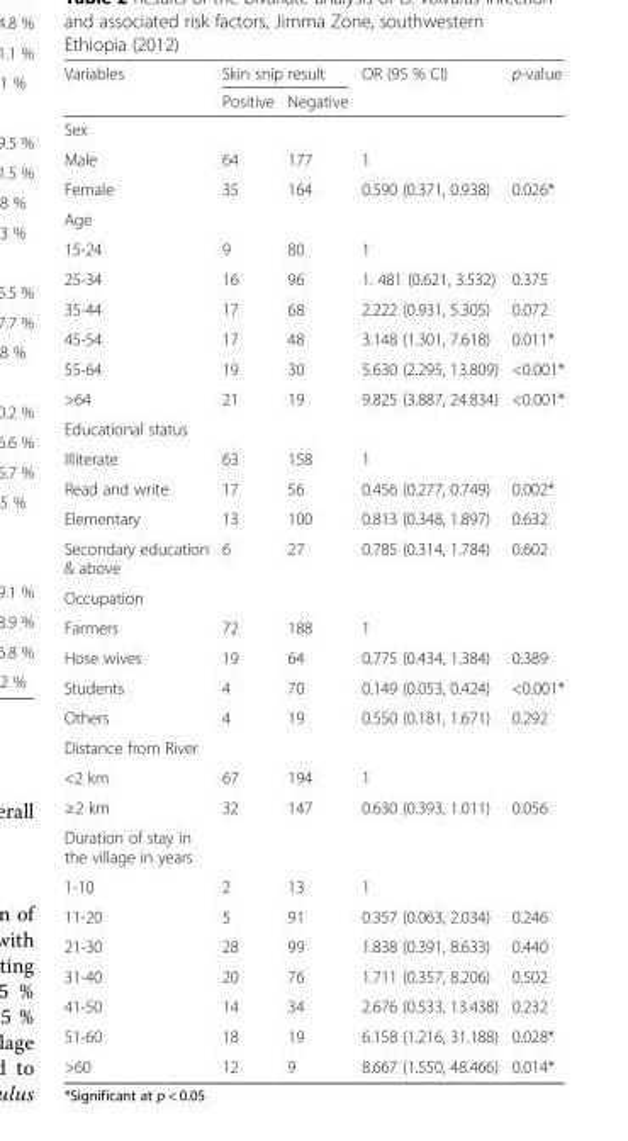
<table><thead><tr><td rowspan="2">Variables</td><td colspan="2">Skin snip result</td><td rowspan="2">OR (95 % CI)</td><td rowspan="2">p-value</td></tr><tr><td>Positive</td><td>Negative</td></tr></thead><tbody><tr><td colspan="5">Sex</td></tr><tr><td>Male</td><td>64</td><td>177</td><td>1</td><td></td></tr><tr><td>Female</td><td>35</td><td>164</td><td>0.590 (0.371, 0.938)</td><td>0.026*</td></tr><tr><td colspan="5">Age</td></tr><tr><td>15-24</td><td>9</td><td>80</td><td>1</td><td></td></tr><tr><td>25-34</td><td>16</td><td>96</td><td>1. 481 (0.621, 3.532)</td><td>0.375</td></tr><tr><td>35-44</td><td>17</td><td>68</td><td>2.222 (0.931, 5.305)</td><td>0.072</td></tr><tr><td>45-54</td><td>17</td><td>48</td><td>3.148 (1.301, 7.618)</td><td>0.011*</td></tr><tr><td>55-64</td><td>19</td><td>30</td><td>5.630 (2.295, 13.809)</td><td>&lt;0.001*</td></tr><tr><td>&gt;64</td><td>21</td><td>19</td><td>9.825 (3.887, 24.834)</td><td>&lt;0.001*</td></tr><tr><td colspan="5">Educational status</td></tr><tr><td>Illiterate</td><td>63</td><td>158</td><td>1</td><td></td></tr><tr><td>Read and write</td><td>17</td><td>56</td><td>0.456 (0.277, 0.749)</td><td>0.002*</td></tr><tr><td>Elementary</td><td>13</td><td>100</td><td>0.813 (0.348, 1.897)</td><td>0.632</td></tr><tr><td>Secondary education &amp; above</td><td>6</td><td>27</td><td>0.785 (0.314, 1.784)</td><td>0.602</td></tr><tr><td colspan="5">Occupation</td></tr><tr><td>Farmers</td><td>72</td><td>188</td><td>1</td><td></td></tr><tr><td>Hose wives</td><td>19</td><td>64</td><td>0.775 (0.434, 1.384)</td><td>0.389</td></tr><tr><td>Students</td><td>4</td><td>70</td><td>0.149 (0.053, 0.424)</td><td>&lt;0.001*</td></tr><tr><td>Others</td><td>4</td><td>19</td><td>0.550 (0.181, 1.671)</td><td>0.292</td></tr><tr><td colspan="5">Distance from River</td></tr><tr><td>&lt;2 km</td><td>67</td><td>194</td><td>1</td><td></td></tr><tr><td>≥2 km</td><td>32</td><td>147</td><td>0.630 (0.393, 1.011)</td><td>0.056</td></tr><tr><td colspan="5">Duration of stay in the village in years</td></tr><tr><td>1-10</td><td>2</td><td>13</td><td>1</td><td></td></tr><tr><td>11-20</td><td>5</td><td>91</td><td>0.357 (0.063, 2.034)</td><td>0.246</td></tr><tr><td>21-30</td><td>28</td><td>99</td><td>1.838 (0.391, 8.633)</td><td>0.440</td></tr><tr><td>31-40</td><td>20</td><td>76</td><td>1.711 (0.357, 8.206)</td><td>0.502</td></tr><tr><td>41-50</td><td>14</td><td>34</td><td>2.676 (0.533, 13.438)</td><td>0.232</td></tr><tr><td>51-60</td><td>18</td><td>19</td><td>6.158 (1.216, 31.188)</td><td>0.028*</td></tr><tr><td>&gt;60</td><td>12</td><td>9</td><td>8.667 (1.550, 48.466)</td><td>0.014*</td></tr></tbody></table>